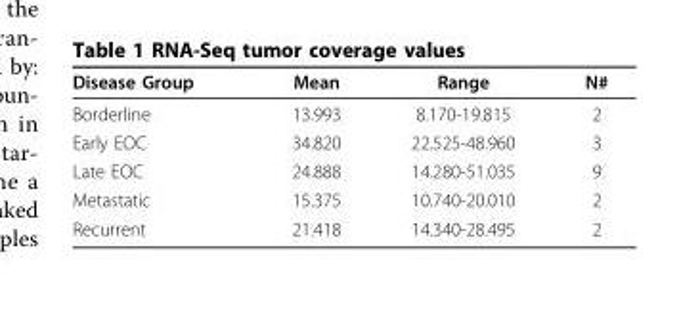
<table><thead><tr><td>Disease Group</td><td>Mean</td><td>Range</td><td>N#</td></tr></thead><tbody><tr><td>Borderline</td><td>13.993</td><td>8.170-19.815</td><td>2</td></tr><tr><td>Early EOC</td><td>34.820</td><td>22.525-48.960</td><td>3</td></tr><tr><td>Late EOC</td><td>24.888</td><td>14.280-51.035</td><td>9</td></tr><tr><td>Metastatic</td><td>15.375</td><td>10.740-20.010</td><td>2</td></tr><tr><td>Recurrent</td><td>21.418</td><td>14.340-28.495</td><td>2</td></tr></tbody></table>